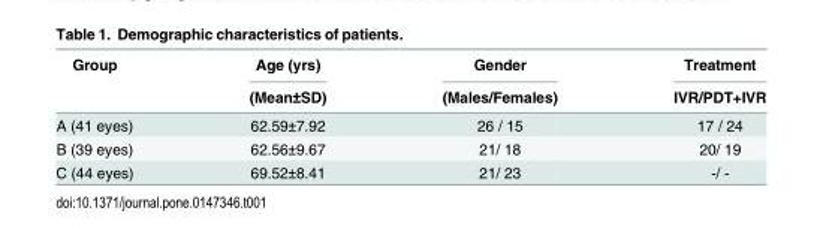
<table><thead><tr><td rowspan="2">Group</td><td rowspan="2">Age (yrs) (Mean±SD)</td><td rowspan="2">Gender (Males/Females)</td><td rowspan="2">Treatment IVR/PDT+IVR</td></tr><tr></tr></thead><tbody><tr><td>A (41 eyes)</td><td>62.59±7.92</td><td>26 / 15</td><td>17 / 24</td></tr><tr><td>B (39 eyes)</td><td>62.56±9.67</td><td>21/ 18</td><td>20/ 19</td></tr><tr><td>C (44 eyes)</td><td>69.52±8.41</td><td>21/ 23</td><td>-/ -</td></tr></tbody></table>